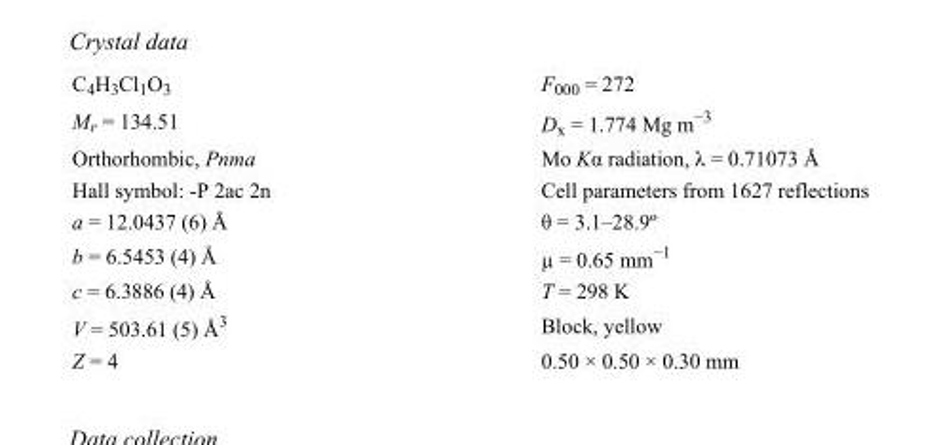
<table><tbody><tr><td>C4H3Cl1O3</td><td>F000 = 272</td></tr><tr><td>M<sub>r</sub> = 134.51</td><td>D<sub>x</sub> = 1.774 Mg m<sup>−3</sup></td></tr><tr><td>Orthorhombic, Pnma</td><td>Mo Kα radiation, λ = 0.71073 Å</td></tr><tr><td>Hall symbol: -P 2ac 2n</td><td>Cell parameters from 1627 reflections</td></tr><tr><td>a = 12.0437 (6) Å</td><td>θ = 3.1–28.9º</td></tr><tr><td>b = 6.5453 (4) Å</td><td>µ = 0.65 mm<sup>−1</sup></td></tr><tr><td>c = 6.3886 (4) Å</td><td>T = 298 K</td></tr><tr><td>V = 503.61 (5) Å<sup>3</sup></td><td>Block, yellow</td></tr><tr><td>Z = 4</td><td>0.50 × 0.50 × 0.30 mm</td></tr></tbody></table>